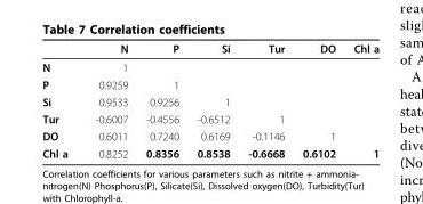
<table><thead><tr><td></td><td>N</td><td>P</td><td>Si</td><td>Tur</td><td>DO</td><td>Chl a</td></tr></thead><tbody><tr><td>N</td><td>1</td><td></td><td></td><td></td><td></td><td></td></tr><tr><td>P</td><td>0.9259</td><td>1</td><td></td><td></td><td></td><td></td></tr><tr><td>Si</td><td>0.9533</td><td>0.9256</td><td>1</td><td></td><td></td><td></td></tr><tr><td>Tur</td><td>-0.6007</td><td>-0.4556</td><td>-0.6512</td><td>1</td><td></td><td></td></tr><tr><td>DO</td><td>0.6011</td><td>0.7240</td><td>0.6169</td><td>-0.1146</td><td>1</td><td></td></tr><tr><td>Chl a</td><td>0.8252</td><td>0.8356</td><td>0.8538</td><td>-0.6668</td><td>0.6102</td><td>1</td></tr></tbody></table>